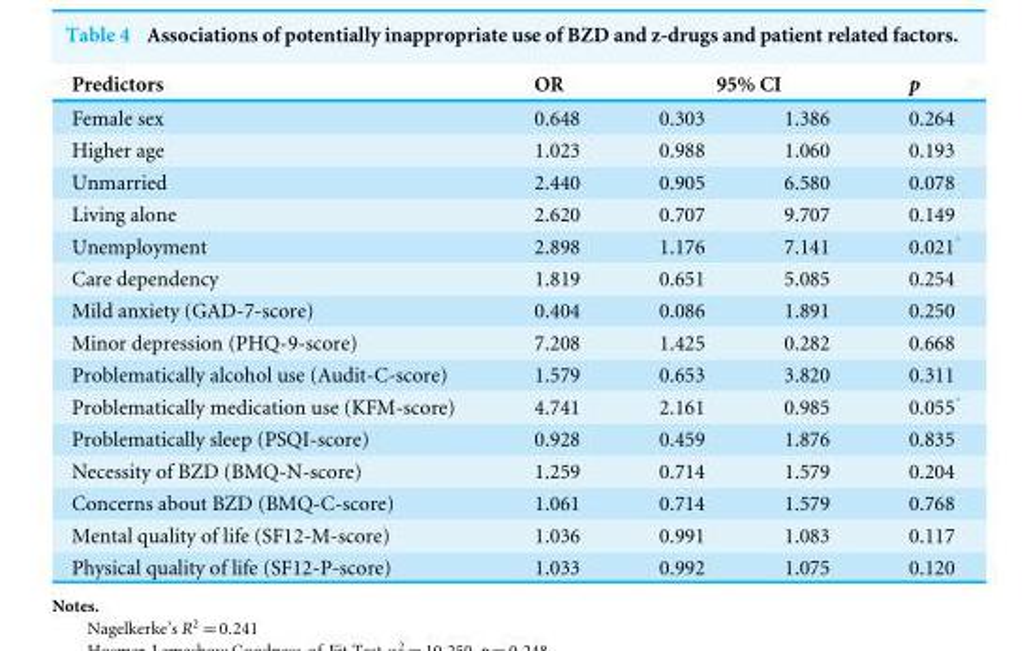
<table><thead><tr><td rowspan="2">Predictors Female sex</td><td rowspan="2">OR 0.648</td><td colspan="2">95% CI</td><td rowspan="2">p 0.264</td></tr><tr><td>0.303</td><td>1.386</td></tr></thead><tbody><tr><td>Higher age</td><td>1.023</td><td>0.988</td><td>1.060</td><td>0.193</td></tr><tr><td>Unmarried</td><td>2.440</td><td>0.905</td><td>6.580</td><td>0.078</td></tr><tr><td>Living alone</td><td>2.620</td><td>0.707</td><td>9.707</td><td>0.149</td></tr><tr><td>Unemployment</td><td>2.898</td><td>1.176</td><td>7.141</td><td>0.021*</td></tr><tr><td>Care dependency</td><td>1.819</td><td>0.651</td><td>5.085</td><td>0.254</td></tr><tr><td>Mild anxiety (GAD-7-score)</td><td>0.404</td><td>0.086</td><td>1.891</td><td>0.250</td></tr><tr><td>Minor depression (PHQ-9-score)</td><td>7.208</td><td>1.425</td><td>0.282</td><td>0.668</td></tr><tr><td>Problematically alcohol use (Audit-C-score)</td><td>1.579</td><td>0.653</td><td>3.820</td><td>0.311</td></tr><tr><td>Problematically medication use (KFM-score)</td><td>4.741</td><td>2.161</td><td>0.985</td><td>0.055*</td></tr><tr><td>Problematically sleep (PSQI-score)</td><td>0.928</td><td>0.459</td><td>1.876</td><td>0.835</td></tr><tr><td>Necessity of BZD (BMQ-N-score)</td><td>1.259</td><td>0.714</td><td>1.579</td><td>0.204</td></tr><tr><td>Concerns about BZD (BMQ-C-score)</td><td>1.061</td><td>0.714</td><td>1.579</td><td>0.768</td></tr><tr><td>Mental quality of life (SF12-M-score)</td><td>1.036</td><td>0.991</td><td>1.083</td><td>0.117</td></tr><tr><td>Physical quality of life (SF12-P-score)</td><td>1.033</td><td>0.992</td><td>1.075</td><td>0.120</td></tr></tbody></table>